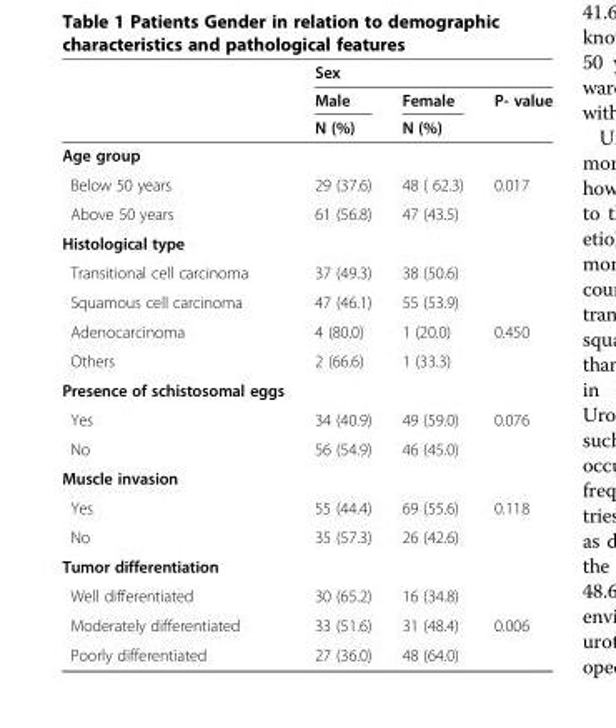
<table><thead><tr><td rowspan="3"></td><td rowspan="3">Sex Male N (%)</td><td rowspan="3">Female N (%)</td><td rowspan="3">P- value</td></tr><tr></tr><tr></tr></thead><tbody><tr><td colspan="4">Age group</td></tr><tr><td>Below 50 years</td><td>29 (37.6)</td><td>48 ( 62.3)</td><td>0.017</td></tr><tr><td>Above 50 years</td><td>61 (56.8)</td><td>47 (43.5)</td><td></td></tr><tr><td colspan="4">Histological type</td></tr><tr><td>Transitional cell carcinoma</td><td>37 (49.3)</td><td>38 (50.6)</td><td></td></tr><tr><td>Squamous cell carcinoma</td><td>47 (46.1)</td><td>55 (53.9)</td><td></td></tr><tr><td>Adenocarcinoma</td><td>4 (80.0)</td><td>1 (20.0)</td><td>0.450</td></tr><tr><td>Others</td><td>2 (66.6)</td><td>1 (33.3)</td><td></td></tr><tr><td colspan="4">Presence of schistosomal eggs</td></tr><tr><td>Yes</td><td>34 (40.9)</td><td>49 (59.0)</td><td>0.076</td></tr><tr><td>No</td><td>56 (54.9)</td><td>46 (45.0)</td><td></td></tr><tr><td colspan="4">Muscle invasion</td></tr><tr><td>Yes</td><td>55 (44.4)</td><td>69 (55.6)</td><td>0.118</td></tr><tr><td>No</td><td>35 (57.3)</td><td>26 (42.6)</td><td></td></tr><tr><td colspan="4">Tumor differentiation</td></tr><tr><td>Well differentiated</td><td>30 (65.2)</td><td>16 (34.8)</td><td></td></tr><tr><td>Moderately differentiated</td><td>33 (51.6)</td><td>31 (48.4)</td><td>0.006</td></tr><tr><td>Poorly differentiated</td><td>27 (36.0)</td><td>48 (64.0)</td><td></td></tr></tbody></table>